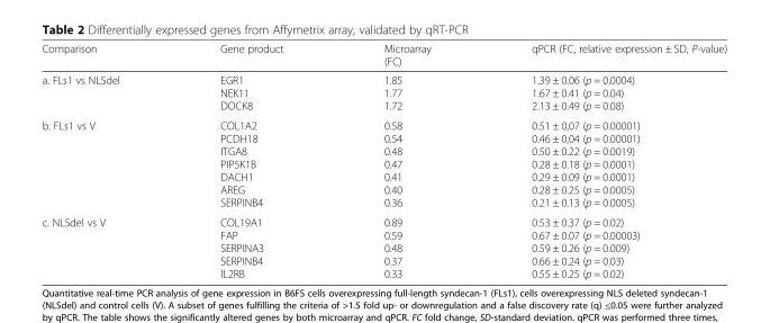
<table><thead><tr><td>Comparison</td><td>Gene product</td><td>Microarray (FC)</td><td>qPCR (FC, relative expression ± SD, P-value)</td></tr></thead><tbody><tr><td>a. FLs1 vs NLSdel</td><td>EGR1 NEK11 DOCK8</td><td>1.85 1.77 1.72</td><td>1.39 ± 0.06 (p = 0.0004) 1.67 ± 0.41 (p = 0.04) 2.13 ± 0.49 (p = 0.08)</td></tr><tr><td>b. FLs1 vs V</td><td>COL1A2 PCDH18 ITGA8 PIP5K1B DACH1 AREG SERPINB4</td><td>0.58 0.54 0.48 0.47 0.41 0.40 0.36</td><td>0.51 ± 0,07 (p = 0.00001) 0.46 ± 0,04 (p = 0.00001) 0.50 ± 0.22 (p = 0.0019) 0.28 ± 0.18 (p = 0.0001) 0.29 ± 0.09 (p = 0.0001) 0.28 ± 0.25 (p = 0.0005) 0.21 ± 0.13 (p = 0.0005)</td></tr><tr><td>c. NLSdel vs V</td><td>COL19A1 FAP SERPINA3 SERPINB4 IL2RB</td><td>0.89 0.59 0.48 0.37 0.33</td><td>0.53 ± 0.37 (p = 0.02) 0.67 ± 0.07 (p = 0.00003) 0.59 ± 0.26 (p = 0.009) 0.66 ± 0.24 (p = 0.03) 0.55 ± 0.25 (p = 0.02)</td></tr></tbody></table>